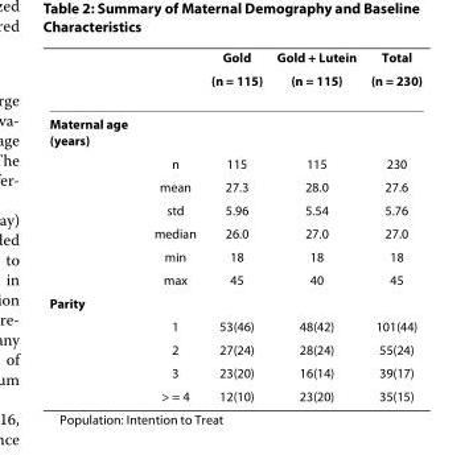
<table><thead><tr><td rowspan="2"></td><td rowspan="2"></td><td rowspan="2">Gold (n = 115)</td><td rowspan="2">Gold + Lutein (n = 115)</td><td rowspan="2">Total (n = 230)</td></tr><tr></tr></thead><tbody><tr><td colspan="5">Maternal age (years)</td></tr><tr><td></td><td>n</td><td>115</td><td>115</td><td>230</td></tr><tr><td></td><td>mean</td><td>27.3</td><td>28.0</td><td>27.6</td></tr><tr><td></td><td>std</td><td>5.96</td><td>5.54</td><td>5.76</td></tr><tr><td></td><td>median</td><td>26.0</td><td>27.0</td><td>27.0</td></tr><tr><td></td><td>min</td><td>18</td><td>18</td><td>18</td></tr><tr><td></td><td>max</td><td>45</td><td>40</td><td>45</td></tr><tr><td colspan="5">Parity</td></tr><tr><td></td><td>1</td><td>53(46)</td><td>48(42)</td><td>101(44)</td></tr><tr><td></td><td>2</td><td>27(24)</td><td>28(24)</td><td>55(24)</td></tr><tr><td></td><td>3</td><td>23(20)</td><td>16(14)</td><td>39(17)</td></tr><tr><td></td><td>&gt; = 4</td><td>12(10)</td><td>23(20)</td><td>35(15)</td></tr></tbody></table>